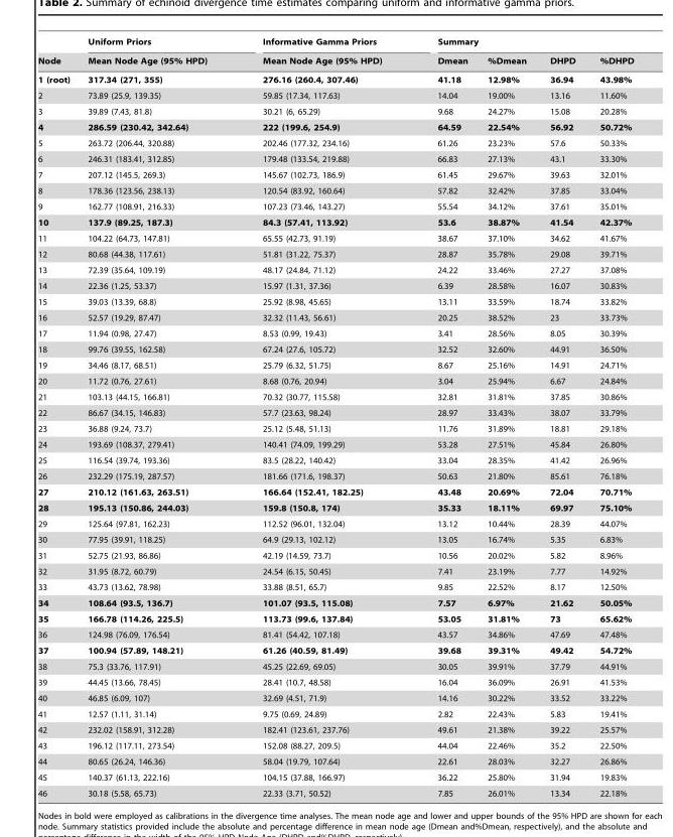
<table><thead><tr><td rowspan="2">Node</td><td rowspan="2">Uniform Priors Mean Node Age (95% HPD)</td><td rowspan="2">Informative Gamma Priors Mean Node Age (95% HPD)</td><td colspan="4">Summary</td></tr><tr><td>Dmean</td><td>%Dmean</td><td>DHPD</td><td>%DHPD</td></tr></thead><tbody><tr><td>1 (root)</td><td>317.34 (271, 355)</td><td>276.16 (260.4, 307.46)</td><td>41.18</td><td>12.98%</td><td>36.94</td><td>43.98%</td></tr><tr><td>2</td><td>73.89 (25.9, 139.35)</td><td>59.85 (17.34, 117.63)</td><td>14.04</td><td>19.00%</td><td>13.16</td><td>11.60%</td></tr><tr><td>3</td><td>39.89 (7.43, 81.8)</td><td>30.21 (6, 65.29)</td><td>9.68</td><td>24.27%</td><td>15.08</td><td>20.28%</td></tr><tr><td>4</td><td>286.59 (230.42, 342.64)</td><td>222 (199.6, 254.9)</td><td>64.59</td><td>22.54%</td><td>56.92</td><td>50.72%</td></tr><tr><td>5</td><td>263.72 (206.44, 320.88)</td><td>202.46 (177.32, 234.16)</td><td>61.26</td><td>23.23%</td><td>57.6</td><td>50.33%</td></tr><tr><td>6</td><td>246.31 (183.41, 312.85)</td><td>179.48 (133.54, 219.88)</td><td>66.83</td><td>27.13%</td><td>43.1</td><td>33.30%</td></tr><tr><td>7</td><td>207.12 (145.5, 269.3)</td><td>145.67 (102.73, 186.9)</td><td>61.45</td><td>29.67%</td><td>39.63</td><td>32.01%</td></tr><tr><td>8</td><td>178.36 (123.56, 238.13)</td><td>120.54 (83.92, 160.64)</td><td>57.82</td><td>32.42%</td><td>37.85</td><td>33.04%</td></tr><tr><td>9</td><td>162.77 (108.91, 216.33)</td><td>107.23 (73.46, 143.27)</td><td>55.54</td><td>34.12%</td><td>37.61</td><td>35.01%</td></tr><tr><td>10</td><td>137.9 (89.25, 187.3)</td><td>84.3 (57.41, 113.92)</td><td>53.6</td><td>38.87%</td><td>41.54</td><td>42.37%</td></tr><tr><td>11</td><td>104.22 (64.73, 147.81)</td><td>65.55 (42.73, 91.19)</td><td>38.67</td><td>37.10%</td><td>34.62</td><td>41.67%</td></tr><tr><td>12</td><td>80.68 (44.38, 117.61)</td><td>51.81 (31.22, 75.37)</td><td>28.87</td><td>35.78%</td><td>29.08</td><td>39.71%</td></tr><tr><td>13</td><td>72.39 (35.64, 109.19)</td><td>48.17 (24.84, 71.12)</td><td>24.22</td><td>33.46%</td><td>27.27</td><td>37.08%</td></tr><tr><td>14</td><td>22.36 (1.25, 53.37)</td><td>15.97 (1.31, 37.36)</td><td>6.39</td><td>28.58%</td><td>16.07</td><td>30.83%</td></tr><tr><td>15</td><td>39.03 (13.39, 68.8)</td><td>25.92 (8.98, 45.65)</td><td>13.11</td><td>33.59%</td><td>18.74</td><td>33.82%</td></tr><tr><td>16</td><td>52.57 (19.29, 87.47)</td><td>32.32 (11.43, 56.61)</td><td>20.25</td><td>38.52%</td><td>23</td><td>33.73%</td></tr><tr><td>17</td><td>11.94 (0.98, 27.47)</td><td>8.53 (0.99, 19.43)</td><td>3.41</td><td>28.56%</td><td>8.05</td><td>30.39%</td></tr><tr><td>18</td><td>99.76 (39.55, 162.58)</td><td>67.24 (27.6, 105.72)</td><td>32.52</td><td>32.60%</td><td>44.91</td><td>36.50%</td></tr><tr><td>19</td><td>34.46 (8.17, 68.51)</td><td>25.79 (6.32, 51.75)</td><td>8.67</td><td>25.16%</td><td>14.91</td><td>24.71%</td></tr><tr><td>20</td><td>11.72 (0.76, 27.61)</td><td>8.68 (0.76, 20.94)</td><td>3.04</td><td>25.94%</td><td>6.67</td><td>24.84%</td></tr><tr><td>21</td><td>103.13 (44.15, 166.81)</td><td>70.32 (30.77, 115.58)</td><td>32.81</td><td>31.81%</td><td>37.85</td><td>30.86%</td></tr><tr><td>22</td><td>86.67 (34.15, 146.83)</td><td>57.7 (23.63, 98.24)</td><td>28.97</td><td>33.43%</td><td>38.07</td><td>33.79%</td></tr><tr><td>23</td><td>36.88 (9.24, 73.7)</td><td>25.12 (5.48, 51.13)</td><td>11.76</td><td>31.89%</td><td>18.81</td><td>29.18%</td></tr><tr><td>24</td><td>193.69 (108.37, 279.41)</td><td>140.41 (74.09, 199.29)</td><td>53.28</td><td>27.51%</td><td>45.84</td><td>26.80%</td></tr><tr><td>25</td><td>116.54 (39.74, 193.36)</td><td>83.5 (28.22, 140.42)</td><td>33.04</td><td>28.35%</td><td>41.42</td><td>26.96%</td></tr><tr><td>26</td><td>232.29 (175.19, 287.57)</td><td>181.66 (171.6, 198.37)</td><td>50.63</td><td>21.80%</td><td>85.61</td><td>76.18%</td></tr><tr><td>27</td><td>210.12 (161.63, 263.51)</td><td>166.64 (152.41, 182.25)</td><td>43.48</td><td>20.69%</td><td>72.04</td><td>70.71%</td></tr><tr><td>28</td><td>195.13 (150.86, 244.03)</td><td>159.8 (150.8, 174)</td><td>35.33</td><td>18.11%</td><td>69.97</td><td>75.10%</td></tr><tr><td>29</td><td>125.64 (97.81, 162.23)</td><td>112.52 (96.01, 132.04)</td><td>13.12</td><td>10.44%</td><td>28.39</td><td>44.07%</td></tr><tr><td>30</td><td>77.95 (39.91, 118.25)</td><td>64.9 (29.13, 102.12)</td><td>13.05</td><td>16.74%</td><td>5.35</td><td>6.83%</td></tr><tr><td>31</td><td>52.75 (21.93, 86.86)</td><td>42.19 (14.59, 73.7)</td><td>10.56</td><td>20.02%</td><td>5.82</td><td>8.96%</td></tr><tr><td>32</td><td>31.95 (8.72, 60.79)</td><td>24.54 (6.15, 50.45)</td><td>7.41</td><td>23.19%</td><td>7.77</td><td>14.92%</td></tr><tr><td>33</td><td>43.73 (13.62, 78.98)</td><td>33.88 (8.51, 65.7)</td><td>9.85</td><td>22.52%</td><td>8.17</td><td>12.50%</td></tr><tr><td>34</td><td>108.64 (93.5, 136.7)</td><td>101.07 (93.5, 115.08)</td><td>7.57</td><td>6.97%</td><td>21.62</td><td>50.05%</td></tr><tr><td>35</td><td>166.78 (114.26, 225.5)</td><td>113.73 (99.6, 137.84)</td><td>53.05</td><td>31.81%</td><td>73</td><td>65.62%</td></tr><tr><td>36</td><td>124.98 (76.09, 176.54)</td><td>81.41 (54.42, 107.18)</td><td>43.57</td><td>34.86%</td><td>47.69</td><td>47.48%</td></tr><tr><td>37</td><td>100.94 (57.89, 148.21)</td><td>61.26 (40.59, 81.49)</td><td>39.68</td><td>39.31%</td><td>49.42</td><td>54.72%</td></tr><tr><td>38</td><td>75.3 (33.76, 117.91)</td><td>45.25 (22.69, 69.05)</td><td>30.05</td><td>39.91%</td><td>37.79</td><td>44.91%</td></tr><tr><td>39</td><td>44.45 (13.66, 78.45)</td><td>28.41 (10.7, 48.58)</td><td>16.04</td><td>36.09%</td><td>26.91</td><td>41.53%</td></tr><tr><td>40</td><td>46.85 (6.09, 107)</td><td>32.69 (4.51, 71.9)</td><td>14.16</td><td>30.22%</td><td>33.52</td><td>33.22%</td></tr><tr><td>41</td><td>12.57 (1.11, 31.14)</td><td>9.75 (0.69, 24.89)</td><td>2.82</td><td>22.43%</td><td>5.83</td><td>19.41%</td></tr><tr><td>42</td><td>232.02 (158.91, 312.28)</td><td>182.41 (123.61, 237.76)</td><td>49.61</td><td>21.38%</td><td>39.22</td><td>25.57%</td></tr><tr><td>43</td><td>196.12 (117.11, 273.54)</td><td>152.08 (88.27, 209.5)</td><td>44.04</td><td>22.46%</td><td>35.2</td><td>22.50%</td></tr><tr><td>44</td><td>80.65 (26.24, 146.36)</td><td>58.04 (19.79, 107.64)</td><td>22.61</td><td>28.03%</td><td>32.27</td><td>26.86%</td></tr><tr><td>45</td><td>140.37 (61.13, 222.16)</td><td>104.15 (37.88, 166.97)</td><td>36.22</td><td>25.80%</td><td>31.94</td><td>19.83%</td></tr><tr><td>46</td><td>30.18 (5.58, 65.73)</td><td>22.33 (3.71, 50.52)</td><td>7.85</td><td>26.01%</td><td>13.34</td><td>22.18%</td></tr></tbody></table>